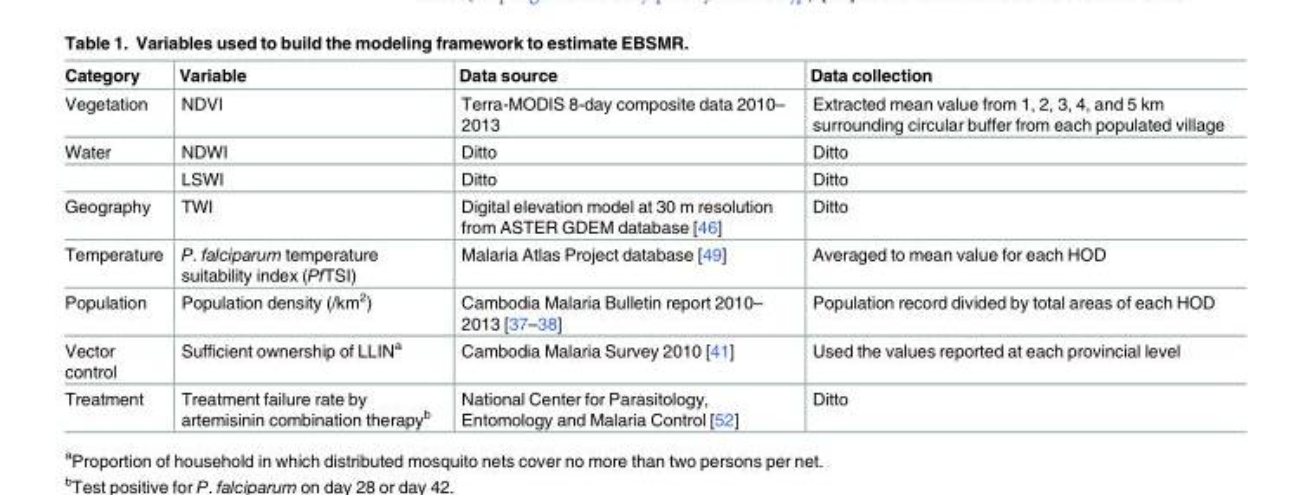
<table><thead><tr><td>Category</td><td>Variable</td><td>Data source</td><td>Data collection</td></tr></thead><tbody><tr><td>Vegetation</td><td>NDVI</td><td>Terra-MODIS 8-day composite data 2010– 2013</td><td>Extracted mean value from 1, 2, 3, 4, and 5 km surrounding circular buffer from each populated village</td></tr><tr><td rowspan="2">Water</td><td>NDWI</td><td>Ditto</td><td>Ditto</td></tr><tr><td>LSWI</td><td>Ditto</td><td>Ditto</td></tr><tr><td>Geography</td><td>TWI</td><td>Digital elevation model at 30 m resolution from ASTER GDEM database [46]</td><td>Ditto</td></tr><tr><td>Temperature</td><td>P. falciparum temperature suitability index (PfTSI)</td><td>Malaria Atlas Project database [49]</td><td>Averaged to mean value for each HOD</td></tr><tr><td>Population</td><td>Population density (/km<sup>2</sup>)</td><td>Cambodia Malaria Bulletin report 2010– 2013 [37–38]</td><td>Population record divided by total areas of each HOD</td></tr><tr><td>Vector control</td><td>Sufficient ownership of LLIN<sup>a</sup></td><td>Cambodia Malaria Survey 2010 [41]</td><td>Used the values reported at each provincial level</td></tr><tr><td>Treatment</td><td>Treatment failure rate by artemisinin combination therapy<sup>b</sup></td><td>National Center for Parasitology, Entomology and Malaria Control [52]</td><td>Ditto</td></tr></tbody></table>